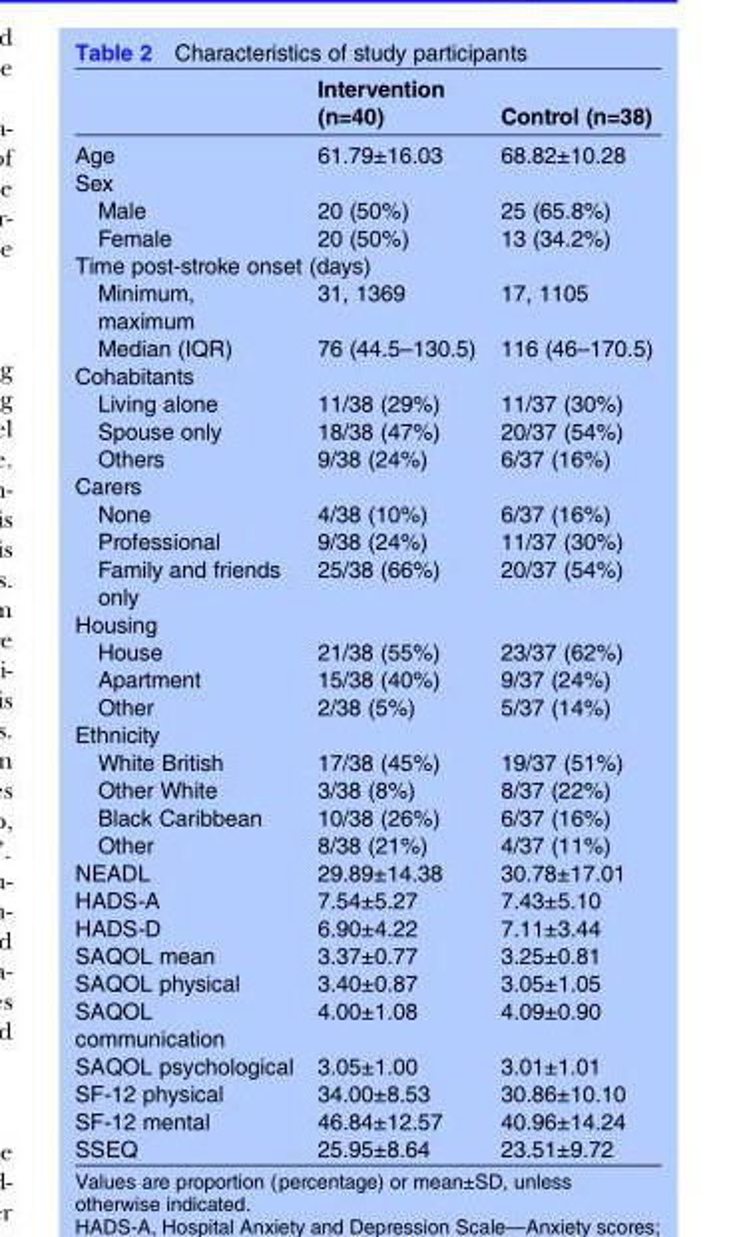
<table><thead><tr><td></td><td>Intervention (n=40)</td><td>Control (n=38)</td></tr></thead><tbody><tr><td>Age</td><td>61.79±16.03</td><td>68.82±10.28</td></tr><tr><td colspan="3">Sex</td></tr><tr><td>Male</td><td>20 (50%)</td><td>25 (65.8%)</td></tr><tr><td>Female</td><td>20 (50%)</td><td>13 (34.2%)</td></tr><tr><td colspan="3">Time post-stroke onset (days)</td></tr><tr><td>Minimum, maximum</td><td>31, 1369</td><td>17, 1105</td></tr><tr><td>Median (IQR)</td><td>76 (44.5–130.5)</td><td>116 (46–170.5)</td></tr><tr><td colspan="3">Cohabitants</td></tr><tr><td>Living alone</td><td>11/38 (29%)</td><td>11/37 (30%)</td></tr><tr><td>Spouse only</td><td>18/38 (47%)</td><td>20/37 (54%)</td></tr><tr><td>Others</td><td>9/38 (24%)</td><td>6/37 (16%)</td></tr><tr><td colspan="3">Carers</td></tr><tr><td>None</td><td>4/38 (10%)</td><td>6/37 (16%)</td></tr><tr><td>Professional</td><td>9/38 (24%)</td><td>11/37 (30%)</td></tr><tr><td>Family and friends only</td><td>25/38 (66%)</td><td>20/37 (54%)</td></tr><tr><td colspan="3">Housing</td></tr><tr><td>House</td><td>21/38 (55%)</td><td>23/37 (62%)</td></tr><tr><td>Apartment</td><td>15/38 (40%)</td><td>9/37 (24%)</td></tr><tr><td>Other</td><td>2/38 (5%)</td><td>5/37 (14%)</td></tr><tr><td colspan="3">Ethnicity</td></tr><tr><td>White British</td><td>17/38 (45%)</td><td>19/37 (51%)</td></tr><tr><td>Other White</td><td>3/38 (8%)</td><td>8/37 (22%)</td></tr><tr><td>Black Caribbean</td><td>10/38 (26%)</td><td>6/37 (16%)</td></tr><tr><td>Other</td><td>8/38 (21%)</td><td>4/37 (11%)</td></tr><tr><td>NEADL</td><td>29.89±14.38</td><td>30.78±17.01</td></tr><tr><td>HADS-A</td><td>7.54±5.27</td><td>7.43±5.10</td></tr><tr><td>HADS-D</td><td>6.90±4.22</td><td>7.11±3.44</td></tr><tr><td>SAQOL mean</td><td>3.37±0.77</td><td>3.25±0.81</td></tr><tr><td>SAQOL physical</td><td>3.40±0.87</td><td>3.05±1.05</td></tr><tr><td>SAQOL communication</td><td>4.00±1.08</td><td>4.09±0.90</td></tr><tr><td>SAQOL psychological</td><td>3.05±1.00</td><td>3.01±1.01</td></tr><tr><td>SF-12 physical</td><td>34.00±8.53</td><td>30.86±10.10</td></tr><tr><td>SF-12 mental</td><td>46.84±12.57</td><td>40.96±14.24</td></tr><tr><td>SSEQ</td><td>25.95±8.64</td><td>23.51±9.72</td></tr></tbody></table>